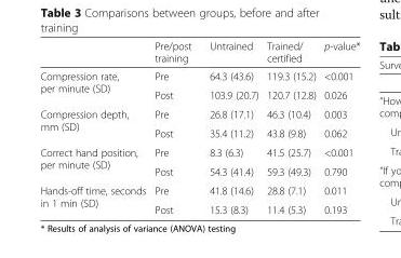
<table><thead><tr><td></td><td>Pre/post training</td><td>Untrained</td><td>Trained/ certified</td><td>p-value*</td></tr></thead><tbody><tr><td rowspan="2">Compression rate, per minute (SD)</td><td>Pre</td><td>64.3 (43.6)</td><td>119.3 (15.2)</td><td>&lt;0.001</td></tr><tr><td>Post</td><td>103.9 (20.7)</td><td>120.7 (12.8)</td><td>0.026</td></tr><tr><td rowspan="2">Compression depth, mm (SD)</td><td>Pre</td><td>26.8 (17.1)</td><td>46.3 (10.4)</td><td>0.003</td></tr><tr><td>Post</td><td>35.4 (11.2)</td><td>43.8 (9.8)</td><td>0.062</td></tr><tr><td rowspan="2">Correct hand position, per minute (SD)</td><td>Pre</td><td>8.3 (6.3)</td><td>41.5 (25.7)</td><td>&lt;0.001</td></tr><tr><td>Post</td><td>54.3 (41.4)</td><td>59.3 (49.3)</td><td>0.790</td></tr><tr><td rowspan="2">Hands-off time, seconds in 1 min (SD)</td><td>Pre</td><td>41.8 (14.6)</td><td>28.8 (7.1)</td><td>0.011</td></tr><tr><td>Post</td><td>15.3 (8.3)</td><td>11.4 (5.3)</td><td>0.193</td></tr></tbody></table>